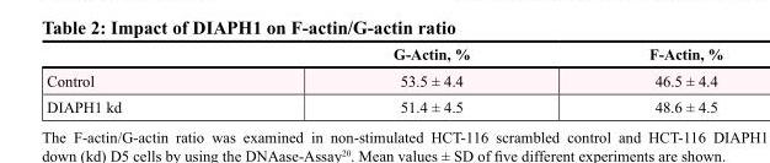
<table><thead><tr><td></td><td>G-Actin, %</td><td>F-Actin, %</td></tr></thead><tbody><tr><td>Control</td><td>53.5 ± 4.4</td><td>46.5 ± 4.4</td></tr><tr><td>DIAPH1 kd</td><td>51.4 ± 4.5</td><td>48.6 ± 4.5</td></tr></tbody></table>